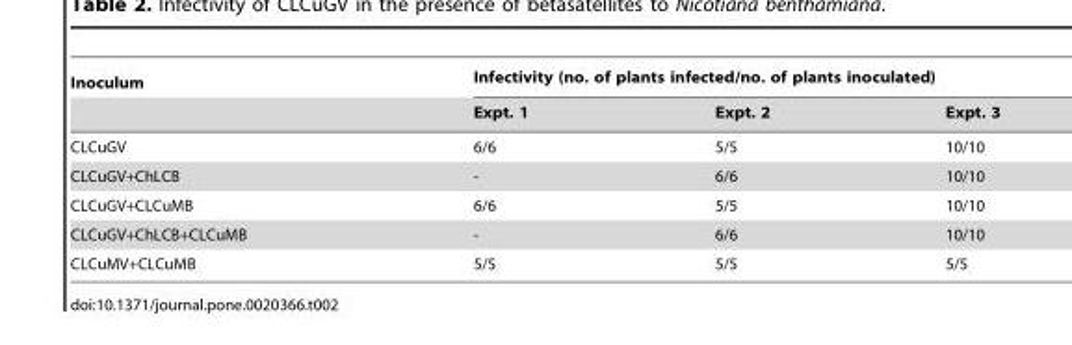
<table><thead><tr><td rowspan="2">Inoculum</td><td colspan="3">Infectivity (no. of plants infected/no. of plants inoculated)</td></tr><tr><td>Expt. 1</td><td>Expt. 2</td><td>Expt. 3</td></tr></thead><tbody><tr><td>CLCuGV</td><td>6/6</td><td>5/5</td><td>10/10</td></tr><tr><td>CLCuGV+ChLCB</td><td>-</td><td>6/6</td><td>10/10</td></tr><tr><td>CLCuGV+CLCuMB</td><td>6/6</td><td>5/5</td><td>10/10</td></tr><tr><td>CLCuGV+ChLCB+CLCuMB</td><td>-</td><td>6/6</td><td>10/10</td></tr><tr><td>CLCuMV+CLCuMB</td><td>5/5</td><td>5/5</td><td>5/5</td></tr></tbody></table>